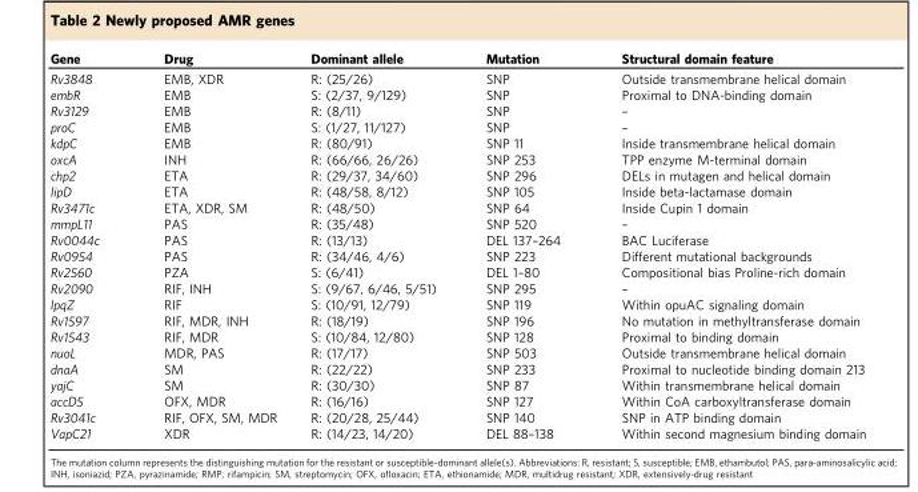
<table><thead><tr><td>Gene</td><td>Drug</td><td>Dominant allele</td><td>Mutation</td><td>Structural domain feature</td></tr></thead><tbody><tr><td>Rv3848</td><td>EMB, XDR</td><td>R: (25/26)</td><td>SNP</td><td>Outside transmembrane helical domain</td></tr><tr><td>embR</td><td>EMB</td><td>S: (2/37, 9/129)</td><td>SNP</td><td>Proximal to DNA-binding domain</td></tr><tr><td>Rv3129</td><td>EMB</td><td>R: (8/11)</td><td>SNP</td><td>–</td></tr><tr><td>proC</td><td>EMB</td><td>S: (1/27, 11/127)</td><td>SNP</td><td>–</td></tr><tr><td>kdpC</td><td>EMB</td><td>R: (80/91)</td><td>SNP 11</td><td>Inside transmembrane helical domain</td></tr><tr><td>oxcA</td><td>INH</td><td>R: (66/66, 26/26)</td><td>SNP 253</td><td>TPP enzyme M-terminal domain</td></tr><tr><td>chp2</td><td>ETA</td><td>R: (29/37, 34/60)</td><td>SNP 296</td><td>DELs in mutagen and helical domain</td></tr><tr><td>lipD</td><td>ETA</td><td>R: (48/58, 8/12)</td><td>SNP 105</td><td>Inside beta-lactamase domain</td></tr><tr><td>Rv3471c</td><td>ETA, XDR, SM</td><td>R: (48/50)</td><td>SNP 64</td><td>Inside Cupin 1 domain</td></tr><tr><td>mmpL11</td><td>PAS</td><td>R: (35/48)</td><td>SNP 520</td><td>–</td></tr><tr><td>Rv0044c</td><td>PAS</td><td>R: (13/13)</td><td>DEL 137–264</td><td>BAC Luciferase</td></tr><tr><td>Rv0954</td><td>PAS</td><td>R: (34/46, 4/6)</td><td>SNP 223</td><td>Different mutational backgrounds</td></tr><tr><td>Rv2560</td><td>PZA</td><td>S: (6/41)</td><td>DEL 1–80</td><td>Compositional bias Proline-rich domain</td></tr><tr><td>Rv2090</td><td>RIF, INH</td><td>S: (9/67, 6/46, 5/51)</td><td>SNP 295</td><td>–</td></tr><tr><td>lpqZ</td><td>RIF</td><td>S: (10/91, 12/79)</td><td>SNP 119</td><td>Within opuAC signaling domain</td></tr><tr><td>Rv1597</td><td>RIF, MDR, INH</td><td>R: (18/19)</td><td>SNP 196</td><td>No mutation in methyltransferase domain</td></tr><tr><td>Rv1543</td><td>RIF, MDR</td><td>S: (10/84, 12/80)</td><td>SNP 128</td><td>Proximal to binding domain</td></tr><tr><td>nuoL</td><td>MDR, PAS</td><td>R: (17/17)</td><td>SNP 503</td><td>Outside transmembrane helical domain</td></tr><tr><td>dnaA</td><td>SM</td><td>R: (22/22)</td><td>SNP 233</td><td>Proximal to nucleotide binding domain 213</td></tr><tr><td>yajC</td><td>SM</td><td>R: (30/30)</td><td>SNP 87</td><td>Within transmembrane helical domain</td></tr><tr><td>accD5</td><td>OFX, MDR</td><td>R: (16/16)</td><td>SNP 127</td><td>Within CoA carboxyltransferase domain</td></tr><tr><td>Rv3041c</td><td>RIF, OFX, SM, MDR</td><td>R: (20/28, 25/44)</td><td>SNP 140</td><td>SNP in ATP binding domain</td></tr><tr><td>VapC21</td><td>XDR</td><td>R: (14/23, 14/20)</td><td>DEL 88–138</td><td>Within second magnesium binding domain</td></tr></tbody></table>